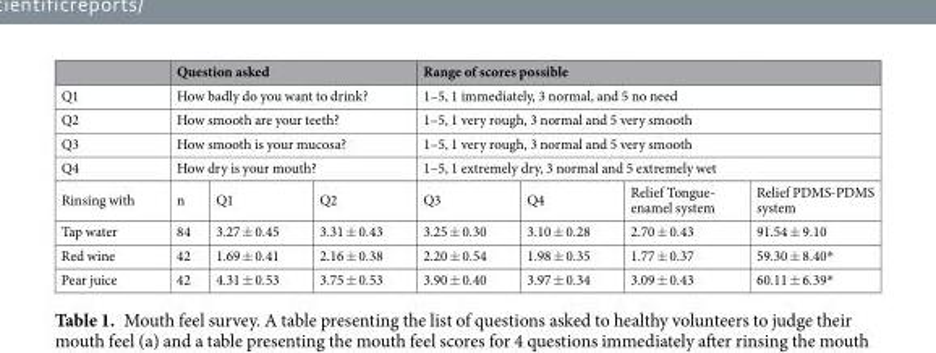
<table><thead><tr><td></td><td colspan="3">Question asked</td><td colspan="4">Range of scores possible</td></tr></thead><tbody><tr><td>Q1</td><td colspan="3">How badly do you want to drink?</td><td colspan="4">1–5, 1 immediately, 3 normal, and 5 no need</td></tr><tr><td>Q2</td><td colspan="3">How smooth are your teeth?</td><td colspan="4">1–5, 1 very rough, 3 normal and 5 very smooth</td></tr><tr><td>Q3</td><td colspan="3">How smooth is your mucosa?</td><td colspan="4">1–5, 1 very rough, 3 normal and 5 very smooth</td></tr><tr><td>Q4</td><td colspan="3">How dry is your mouth?</td><td colspan="4">1–5, 1 extremely dry, 3 normal and 5 extremely wet</td></tr><tr><td>Rinsing with</td><td>n</td><td>Q1</td><td>Q2</td><td>Q3</td><td>Q4</td><td>Relief Tongue- enamel system</td><td>Relief PDMS-PDMS system</td></tr><tr><td>Tap water</td><td>84</td><td>3.27 ± 0.45</td><td>3.31 ± 0.43</td><td>3.25 ± 0.30</td><td>3.10 ± 0.28</td><td>2.70 ± 0.43</td><td>91.54 ± 9.10</td></tr><tr><td>Red wine</td><td>42</td><td>1.69 ± 0.41</td><td>2.16 ± 0.38</td><td>2.20 ± 0.54</td><td>1.98 ± 0.35</td><td>1.77 ± 0.37</td><td>59.30 ± 8.40*</td></tr><tr><td>Pear juice</td><td>42</td><td>4.31 ± 0.53</td><td>3.75 ± 0.53</td><td>3.90 ± 0.40</td><td>3.97 ± 0.34</td><td>3.09 ± 0.43</td><td>60.11 ± 6.39*</td></tr></tbody></table>